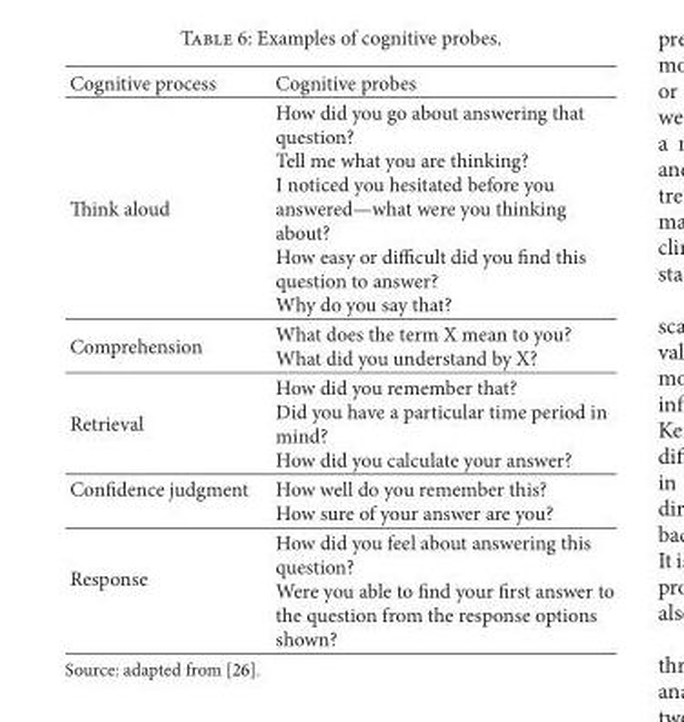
<table><thead><tr><td>Cognitive process</td><td>Cognitive probes</td></tr></thead><tbody><tr><td>Think aloud</td><td>How did you go about answering that question? Tell me what you are thinking? I noticed you hesitated before you answered—what were you thinking about? How easy or difficult did you find this question to answer? Why do you say that?</td></tr><tr><td>Comprehension</td><td>What does the term X mean to you? What did you understand by X?</td></tr><tr><td>Retrieval</td><td>How did you remember that? Did you have a particular time period in mind? How did you calculate your answer?</td></tr><tr><td>Confidence judgment</td><td>How well do you remember this? How sure of your answer are you?</td></tr><tr><td>Response</td><td>How did you feel about answering this question? Were you able to find your first answer to the question from the response options shown?</td></tr></tbody></table>